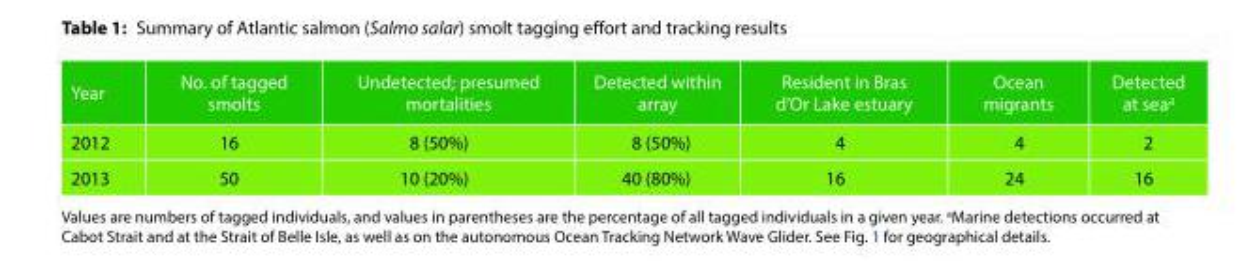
<table><thead><tr><td>Year</td><td>No. of tagged smolts</td><td>Undetected; presumed mortalities</td><td>Detected within array</td><td>Resident in Bras d’Or Lake estuary</td><td>Ocean migrants</td><td>Detected at sea<sup>a</sup></td></tr></thead><tbody><tr><td>2012</td><td>16</td><td>8 (50%)</td><td>8 (50%)</td><td>4</td><td>4</td><td>2</td></tr><tr><td>2013</td><td>50</td><td>10 (20%)</td><td>40 (80%)</td><td>16</td><td>24</td><td>16</td></tr></tbody></table>